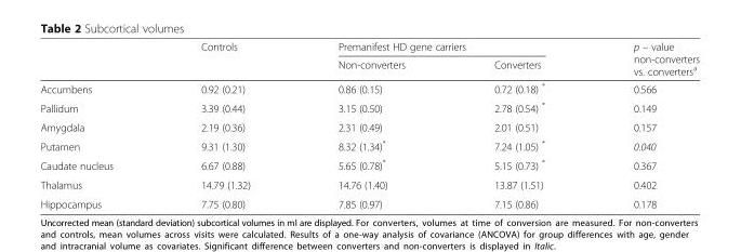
<table><thead><tr><td rowspan="2"></td><td rowspan="2">Controls</td><td colspan="2">Premanifest HD gene carriers</td><td rowspan="2">p – value non-converters vs. converters<sup>a</sup></td></tr><tr><td>Non-converters</td><td>Converters</td></tr></thead><tbody><tr><td>Accumbens</td><td>0.92 (0.21)</td><td>0.86 (0.15)</td><td>0.72 (0.18) *</td><td>0.566</td></tr><tr><td>Pallidum</td><td>3.39 (0.44)</td><td>3.15 (0.50)</td><td>2.78 (0.54) *</td><td>0.149</td></tr><tr><td>Amygdala</td><td>2.19 (0.36)</td><td>2.31 (0.49)</td><td>2.01 (0.51)</td><td>0.157</td></tr><tr><td>Putamen</td><td>9.31 (1.30)</td><td>8.32 (1.34)*</td><td>7.24 (1.05) *</td><td>0.040</td></tr><tr><td>Caudate nucleus</td><td>6.67 (0.88)</td><td>5.65 (0.78)*</td><td>5.15 (0.73) *</td><td>0.367</td></tr><tr><td>Thalamus</td><td>14.79 (1.32)</td><td>14.76 (1.40)</td><td>13.87 (1.51)</td><td>0.402</td></tr><tr><td>Hippocampus</td><td>7.75 (0.80)</td><td>7.85 (0.97)</td><td>7.15 (0.86)</td><td>0.178</td></tr></tbody></table>